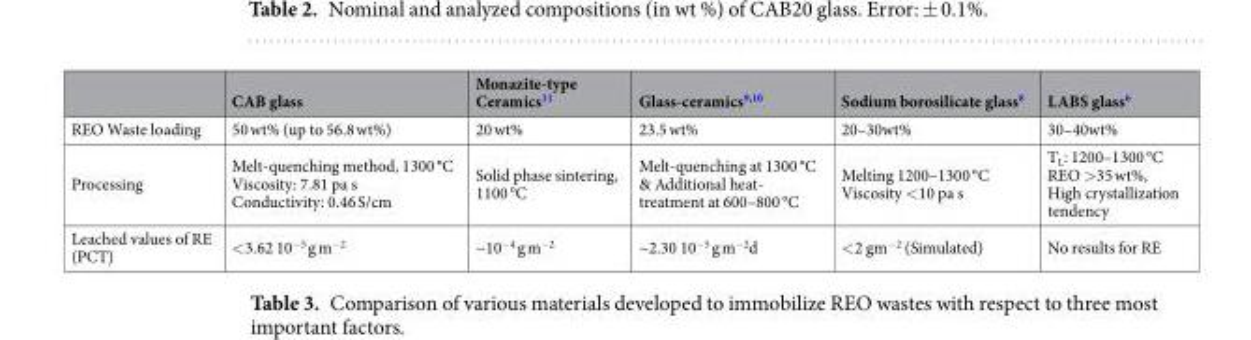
<table><thead><tr><td></td><td>CAB glass</td><td>Monazite-type Ceramics<sup>11</sup></td><td>Glass-ceramics<sup>9,10</sup></td><td>Sodium borosilicate glass<sup>8</sup></td><td>LABS glass<sup>6</sup></td></tr></thead><tbody><tr><td>REO Waste loading</td><td>50 wt% (up to 56.8 wt%)</td><td>20 wt%</td><td>23.5 wt%</td><td>20–30wt%</td><td>30–40wt%</td></tr><tr><td>Processing</td><td>Melt-quenching method, 1300 °C Viscosity: 7.81 pa s Conductivity: 0.46 S/cm</td><td>Solid phase sintering, 1100 °C</td><td>Melt-quenching at 1300 °C &amp; Additional heat- treatment at 600–800 °C</td><td>Melting 1200–1300 °C Viscosity &lt;10 pa s</td><td>T<sub>L</sub>: 1200–1300 °C REO &gt;35 wt%, High crystallization tendency</td></tr><tr><td>Leached values of RE (PCT)</td><td>&lt;3.62 10<sup>−5</sup> g m<sup>−2</sup></td><td>~10<sup>−4</sup> g m<sup>−2</sup></td><td>~2.30 10<sup>−5</sup> g m<sup>−2</sup>d</td><td>&lt;2 gm<sup>−2</sup> (Simulated)</td><td>No results for RE</td></tr></tbody></table>